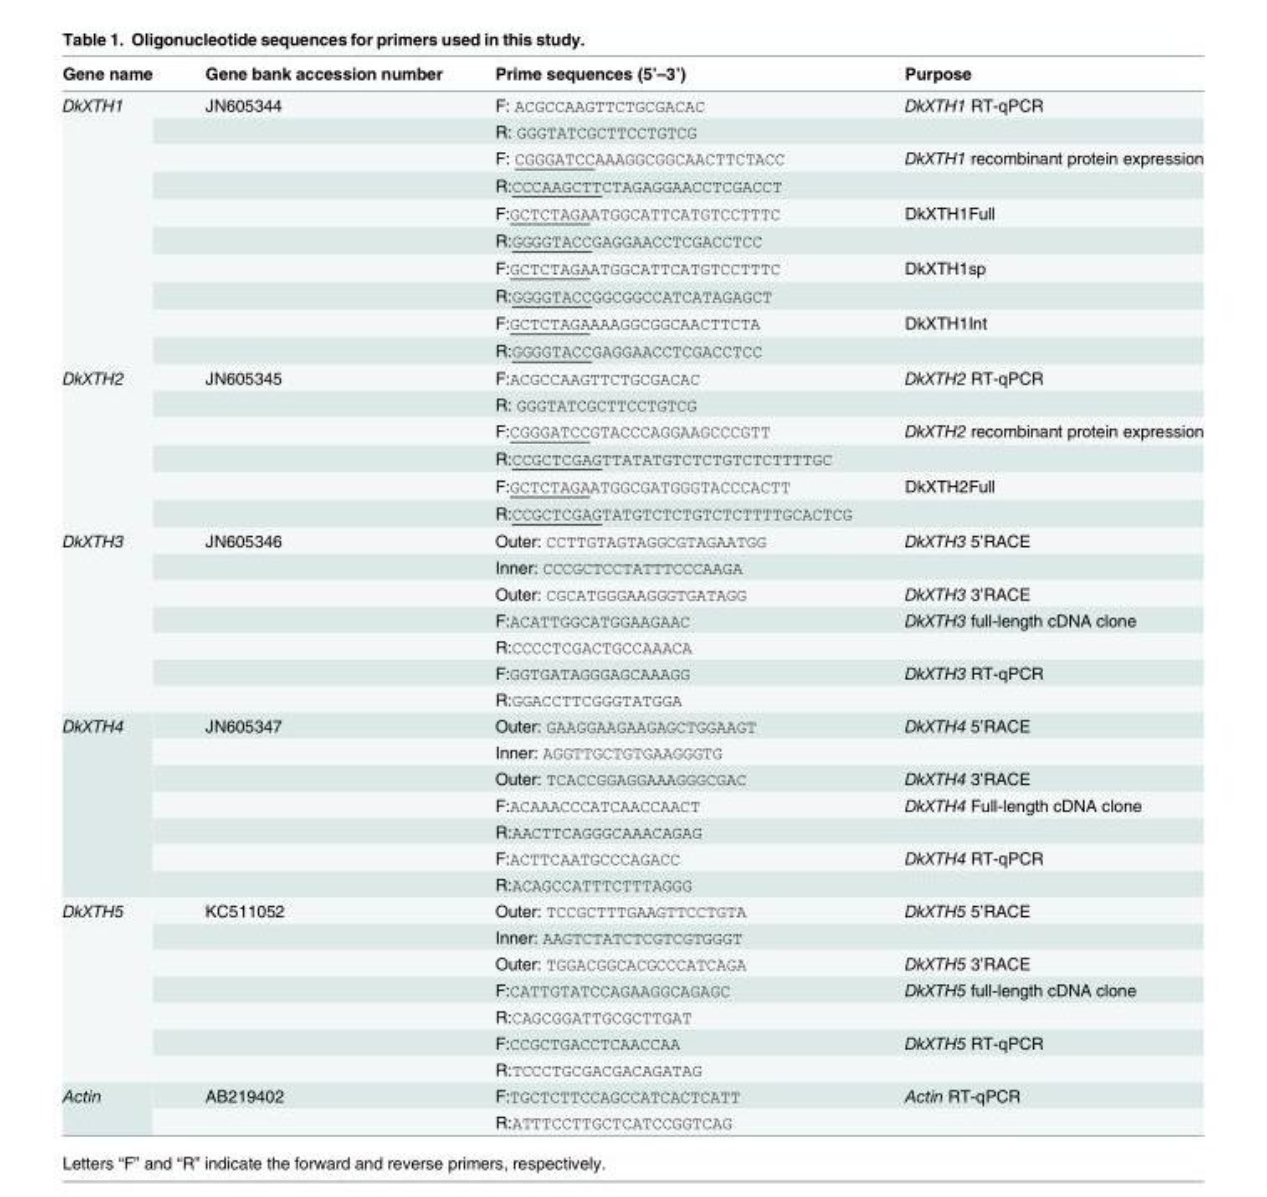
<table><thead><tr><td>Gene name</td><td>Gene bank accession number</td><td>Prime sequences (5’–3’)</td><td>Purpose</td></tr></thead><tbody><tr><td rowspan="10">DkXTH1</td><td>JN605344</td><td>F: ACGCCAAGTTCTGCGACAC</td><td>DkXTH1 RT-qPCR</td></tr><tr><td></td><td>R: GGGTATCGCTTCCTGTCG</td><td></td></tr><tr><td></td><td>F: CGGGATCCAAAGGCGGCAACTTCTACC</td><td>DkXTH1 recombinant protein expression</td></tr><tr><td></td><td>R:CCCAAGCTTCTAGAGGAACCTCGACCT</td><td></td></tr><tr><td></td><td>F:GCTCTAGAATGGCATTCATGTCCTTTC</td><td>DkXTH1Full</td></tr><tr><td></td><td>R:GGGGTACCGAGGAACCTCGACCTCC</td><td></td></tr><tr><td></td><td>F:GCTCTAGAATGGCATTCATGTCCTTTC</td><td>DkXTH1sp</td></tr><tr><td></td><td>R:GGGGTACCGGCGGCCATCATAGAGCT</td><td></td></tr><tr><td></td><td>F:GCTCTAGAAAAGGCGGCAACTTCTA</td><td>DkXTH1Int</td></tr><tr><td></td><td>R:GGGGTACCGAGGAACCTCGACCTCC</td><td></td></tr><tr><td rowspan="6">DkXTH2</td><td>JN605345</td><td>F:ACGCCAAGTTCTGCGACAC</td><td>DkXTH2 RT-qPCR</td></tr><tr><td></td><td>R: GGGTATCGCTTCCTGTCG</td><td></td></tr><tr><td></td><td>F:CGGGATCCGTACCCAGGAAGCCCGTT</td><td>DkXTH2 recombinant protein expression</td></tr><tr><td></td><td>R:CCGCTCGAGTTATATGTCTCTGTCTCTTTTGC</td><td></td></tr><tr><td></td><td>F:GCTCTAGAATGGCGATGGGTACCCACTT</td><td>DkXTH2Full</td></tr><tr><td></td><td>R:CCGCTCGAGTATGTCTCTGTCTCTTTTGCACTCG</td><td></td></tr><tr><td rowspan="7">DkXTH3</td><td>JN605346</td><td>Outer: CCTTGTAGTAGGCGTAGAATGG</td><td>DkXTH3 5’RACE</td></tr><tr><td></td><td>Inner: CCCGCTCCTATTTCCCAAGA</td><td></td></tr><tr><td></td><td>Outer: CGCATGGGAAGGGTGATAGG</td><td>DkXTH3 3’RACE</td></tr><tr><td></td><td>F:ACATTGGCATGGAAGAAC</td><td>DkXTH3 full-length cDNA clone</td></tr><tr><td></td><td>R:CCCCTCGACTGCCAAACA</td><td></td></tr><tr><td></td><td>F:GGTGATAGGGAGCAAAGG</td><td>DkXTH3 RT-qPCR</td></tr><tr><td></td><td>R:GGACCTTCGGGTATGGA</td><td></td></tr><tr><td rowspan="7">DkXTH4</td><td>JN605347</td><td>Outer: GAAGGAAGAAGAGCTGGAAGT</td><td>DkXTH4 5’RACE</td></tr><tr><td></td><td>Inner: AGGTTGCTGTGAAGGGTG</td><td></td></tr><tr><td></td><td>Outer: TCACCGGAGGAAAGGGCGAC</td><td>DkXTH4 3’RACE</td></tr><tr><td></td><td>F:ACAAACCCATCAACCAACT</td><td>DkXTH4 Full-length cDNA clone</td></tr><tr><td></td><td>R:AACTTCAGGGCAAACAGAG</td><td></td></tr><tr><td></td><td>F:ACTTCAATGCCCAGACC</td><td>DkXTH4 RT-qPCR</td></tr><tr><td></td><td>R:ACAGCCATTTCTTTAGGG</td><td></td></tr><tr><td rowspan="7">DkXTH5</td><td>KC511052</td><td>Outer: TCCGCTTTGAAGTTCCTGTA</td><td>DkXTH5 5’RACE</td></tr><tr><td></td><td>Inner: AAGTCTATCTCGTCGTGGGT</td><td></td></tr><tr><td></td><td>Outer: TGGACGGCACGCCCATCAGA</td><td>DkXTH5 3’RACE</td></tr><tr><td></td><td>F:CATTGTATCCAGAAGGCAGAGC</td><td>DkXTH5 full-length cDNA clone</td></tr><tr><td></td><td>R:CAGCGGATTGCGCTTGAT</td><td></td></tr><tr><td></td><td>F:CCGCTGACCTCAACCAA</td><td>DkXTH5 RT-qPCR</td></tr><tr><td></td><td>R:TCCCTGCGACGACAGATAG</td><td></td></tr><tr><td rowspan="2">Actin</td><td>AB219402</td><td>F:TGCTCTTCCAGCCATCACTCATT</td><td>Actin RT-qPCR</td></tr><tr><td></td><td>R:ATTTCCTTGCTCATCCGGTCAG</td><td></td></tr></tbody></table>